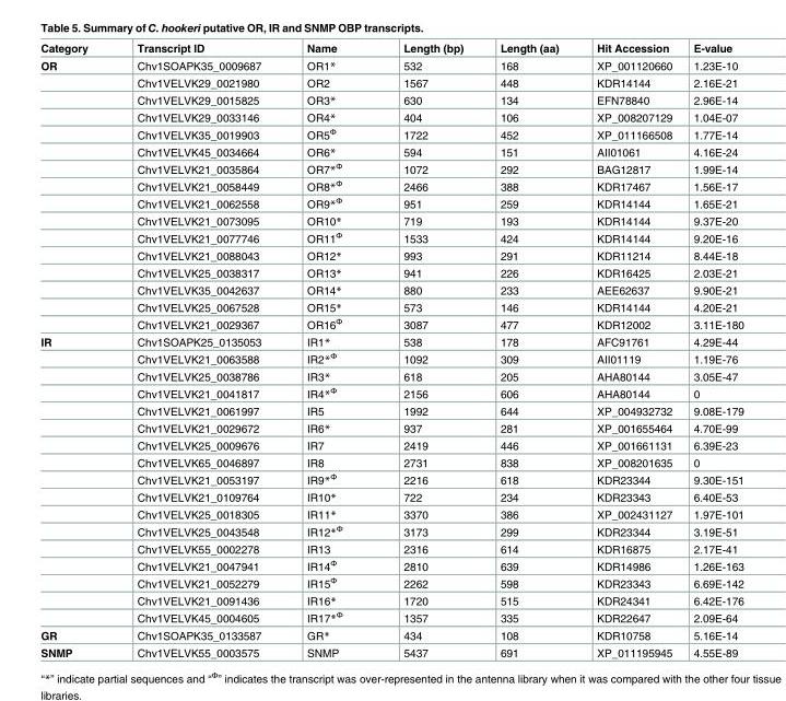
<table><thead><tr><td>Category</td><td>Transcript ID</td><td>Name</td><td>Length (bp)</td><td>Length (aa)</td><td>Hit Accession</td><td>E-value</td></tr></thead><tbody><tr><td rowspan="16">OR</td><td>Chv1SOAPK35_0009687</td><td>OR1*</td><td>532</td><td>168</td><td>XP_001120660</td><td>1.23E-10</td></tr><tr><td>Chv1VELVK29_0021980</td><td>OR2</td><td>1567</td><td>448</td><td>KDR14144</td><td>2.16E-21</td></tr><tr><td>Chv1VELVK29_0015825</td><td>OR3*</td><td>630</td><td>134</td><td>EFN78840</td><td>2.96E-14</td></tr><tr><td>Chv1VELVK29_0033146</td><td>OR4*</td><td>404</td><td>106</td><td>XP_008207129</td><td>1.04E-07</td></tr><tr><td>Chv1VELVK35_0019903</td><td>OR5<sup>Φ</sup></td><td>1722</td><td>452</td><td>XP_011166508</td><td>1.77E-14</td></tr><tr><td>Chv1VELVK45_0034664</td><td>OR6*</td><td>594</td><td>151</td><td>AII01061</td><td>4.16E-24</td></tr><tr><td>Chv1VELVK21_0035864</td><td>OR7*<sup>Φ</sup></td><td>1072</td><td>292</td><td>BAG12817</td><td>1.99E-14</td></tr><tr><td>Chv1VELVK21_0058449</td><td>OR8*<sup>Φ</sup></td><td>2466</td><td>388</td><td>KDR17467</td><td>1.56E-17</td></tr><tr><td>Chv1VELVK21_0062558</td><td>OR9*<sup>Φ</sup></td><td>951</td><td>259</td><td>KDR14144</td><td>1.65E-21</td></tr><tr><td>Chv1VELVK21_0073095</td><td>OR10*</td><td>719</td><td>193</td><td>KDR14144</td><td>9.37E-20</td></tr><tr><td>Chv1VELVK21_0077746</td><td>OR11<sup>Φ</sup></td><td>1533</td><td>424</td><td>KDR14144</td><td>9.20E-16</td></tr><tr><td>Chv1VELVK21_0088043</td><td>OR12*</td><td>993</td><td>291</td><td>KDR11214</td><td>8.44E-18</td></tr><tr><td>Chv1VELVK25_0038317</td><td>OR13*</td><td>941</td><td>226</td><td>KDR16425</td><td>2.03E-21</td></tr><tr><td>Chv1VELVK35_0042637</td><td>OR14*</td><td>880</td><td>233</td><td>AEE62637</td><td>9.90E-21</td></tr><tr><td>Chv1VELVK25_0067528</td><td>OR15*</td><td>573</td><td>146</td><td>KDR14144</td><td>4.20E-21</td></tr><tr><td>Chv1VELVK21_0029367</td><td>OR16<sup>Φ</sup></td><td>3087</td><td>477</td><td>KDR12002</td><td>3.11E-180</td></tr><tr><td rowspan="17">IR</td><td>Chv1SOAPK25_0135053</td><td>IR1*</td><td>538</td><td>178</td><td>AFC91761</td><td>4.29E-44</td></tr><tr><td>Chv1VELVK21_0063588</td><td>IR2*<sup>Φ</sup></td><td>1092</td><td>309</td><td>AII01119</td><td>1.19E-76</td></tr><tr><td>Chv1VELVK25_0038786</td><td>IR3*</td><td>618</td><td>205</td><td>AHA80144</td><td>3.05E-47</td></tr><tr><td>Chv1VELVK21_0041817</td><td>IR4*<sup>Φ</sup></td><td>2156</td><td>606</td><td>AHA80144</td><td>0</td></tr><tr><td>Chv1VELVK21_0061997</td><td>IR5</td><td>1992</td><td>644</td><td>XP_004932732</td><td>9.08E-179</td></tr><tr><td>Chv1VELVK21_0029672</td><td>IR6*</td><td>937</td><td>281</td><td>XP_001655464</td><td>4.70E-99</td></tr><tr><td>Chv1VELVK25_0009676</td><td>IR7</td><td>2419</td><td>446</td><td>XP_001661131</td><td>6.39E-23</td></tr><tr><td>Chv1VELVK65_0046897</td><td>IR8</td><td>2731</td><td>838</td><td>XP_008201635</td><td>0</td></tr><tr><td>Chv1VELVK21_0053197</td><td>IR9*<sup>Φ</sup></td><td>2216</td><td>618</td><td>KDR23344</td><td>9.30E-151</td></tr><tr><td>Chv1VELVK21_0109764</td><td>IR10*</td><td>722</td><td>234</td><td>KDR23343</td><td>6.40E-53</td></tr><tr><td>Chv1VELVK25_0018305</td><td>IR11*</td><td>3370</td><td>386</td><td>XP_002431127</td><td>1.97E-101</td></tr><tr><td>Chv1VELVK25_0043548</td><td>IR12*<sup>Φ</sup></td><td>3173</td><td>299</td><td>KDR23344</td><td>3.19E-51</td></tr><tr><td>Chv1VELVK55_0002278</td><td>IR13</td><td>2316</td><td>614</td><td>KDR16875</td><td>2.17E-41</td></tr><tr><td>Chv1VELVK21_0047941</td><td>IR14<sup>Φ</sup></td><td>2810</td><td>639</td><td>KDR14986</td><td>1.26E-163</td></tr><tr><td>Chv1VELVK21_0052279</td><td>IR15<sup>Φ</sup></td><td>2262</td><td>598</td><td>KDR23343</td><td>6.69E-142</td></tr><tr><td>Chv1VELVK21_0091436</td><td>IR16*</td><td>1720</td><td>515</td><td>KDR24341</td><td>6.42E-176</td></tr><tr><td>Chv1VELVK45_0004605</td><td>IR17*<sup>Φ</sup></td><td>1357</td><td>335</td><td>KDR22647</td><td>2.09E-64</td></tr><tr><td>GR</td><td>Chv1SOAPK35_0133587</td><td>GR*</td><td>434</td><td>108</td><td>KDR10758</td><td>5.16E-14</td></tr><tr><td>SNMP</td><td>Chv1VELVK55_0003575</td><td>SNMP</td><td>5437</td><td>691</td><td>XP_011195945</td><td>4.55E-89</td></tr></tbody></table>